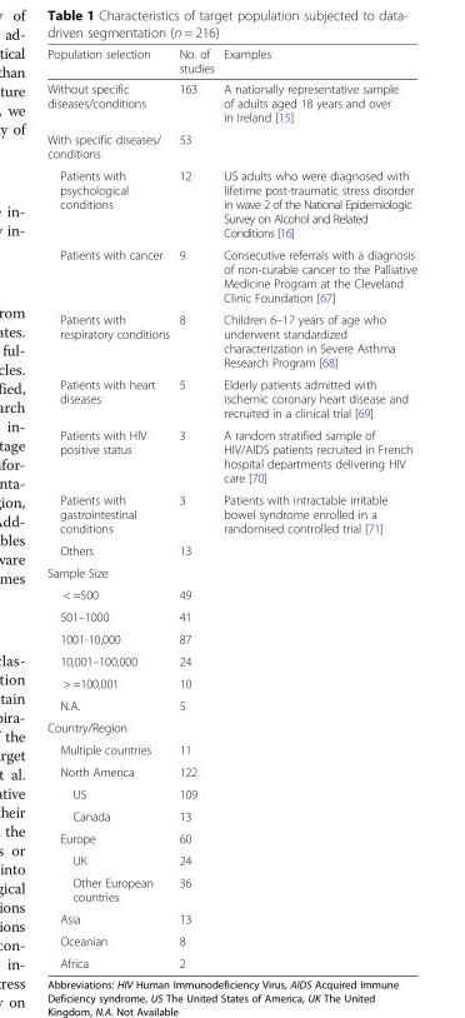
<table><thead><tr><td>Population selection</td><td>No. of studies</td><td>Examples</td></tr></thead><tbody><tr><td>Without specific diseases/conditions</td><td>163</td><td>A nationally representative sample of adults aged 18 years and over in Ireland [15]</td></tr><tr><td>With specific diseases/ conditions</td><td>53</td><td></td></tr><tr><td>Patients with psychological conditions</td><td>12</td><td>US adults who were diagnosed with lifetime post-traumatic stress disorder in wave 2 of the National Epidemiologic Survey on Alcohol and Related Conditions [16]</td></tr><tr><td>Patients with cancer</td><td>9</td><td>Consecutive referrals with a diagnosis of non-curable cancer to the Palliative Medicine Program at the Cleveland Clinic Foundation [67]</td></tr><tr><td>Patients with respiratory conditions</td><td>8</td><td>Children 6–17 years of age who underwent standardized characterization in Severe Asthma Research Program [68]</td></tr><tr><td>Patients with heart diseases</td><td>5</td><td>Elderly patients admitted with ischemic coronary heart disease and recruited in a clinical trial [69]</td></tr><tr><td>Patients with HIV positive status</td><td>3</td><td>A random stratified sample of HIV/AIDS patients recruited in French hospital departments delivering HIV care [70]</td></tr><tr><td>Patients with gastrointestinal conditions</td><td>3</td><td>Patients with intractable irritable bowel syndrome enrolled in a randomised controlled trial [71]</td></tr><tr><td>Others</td><td>13</td><td></td></tr><tr><td colspan="3">Sample Size</td></tr><tr><td>&lt; =500</td><td>49</td><td></td></tr><tr><td>501–1000</td><td>41</td><td></td></tr><tr><td>1001-10,000</td><td>87</td><td></td></tr><tr><td>10,001–100,000</td><td>24</td><td></td></tr><tr><td>&gt; =100,001</td><td>10</td><td></td></tr><tr><td>N.A.</td><td>5</td><td></td></tr><tr><td colspan="3">Country/Region</td></tr><tr><td>Multiple countries</td><td>11</td><td></td></tr><tr><td>North America</td><td>122</td><td></td></tr><tr><td>US</td><td>109</td><td></td></tr><tr><td>Canada</td><td>13</td><td></td></tr><tr><td>Europe</td><td>60</td><td></td></tr><tr><td>UK</td><td>24</td><td></td></tr><tr><td>Other European countries</td><td>36</td><td></td></tr><tr><td>Asia</td><td>13</td><td></td></tr><tr><td>Oceanian</td><td>8</td><td></td></tr><tr><td>Africa</td><td>2</td><td></td></tr></tbody></table>